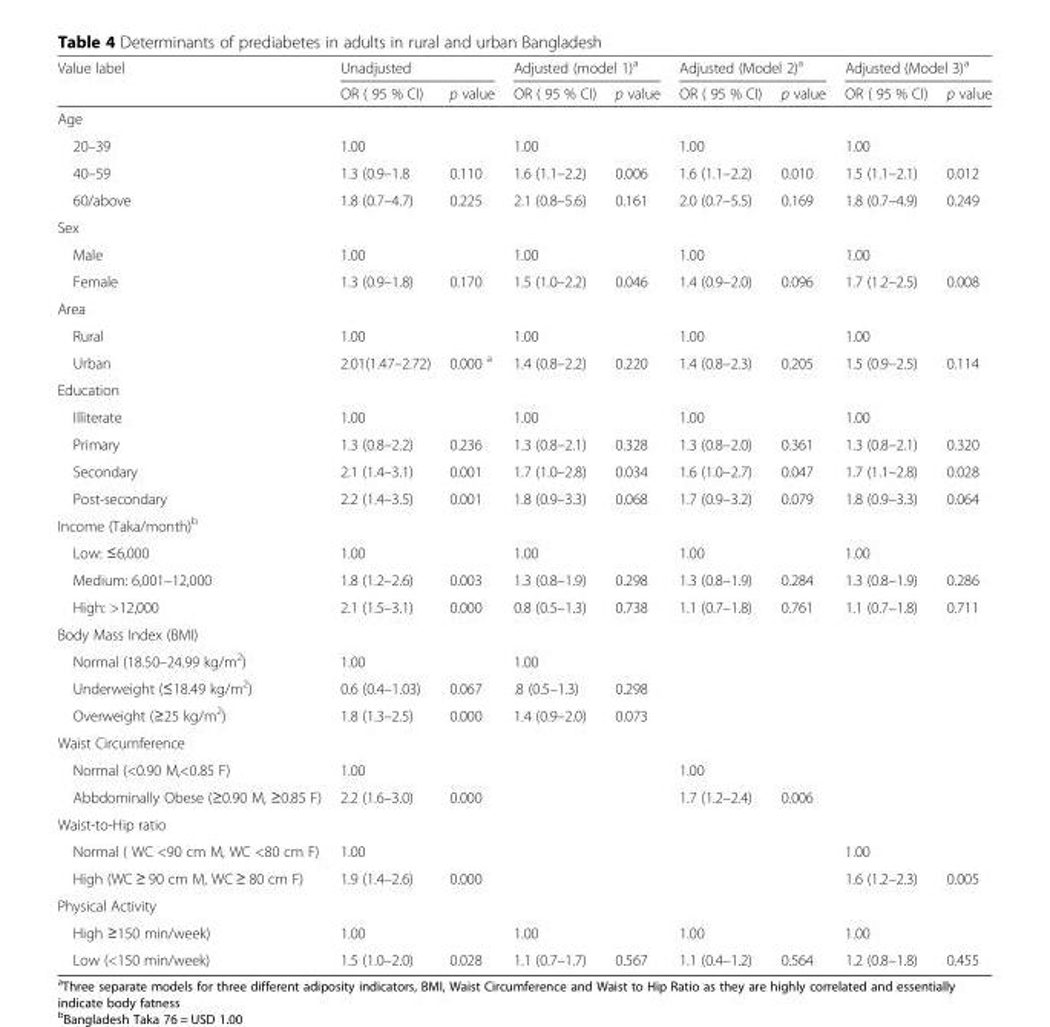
<table><thead><tr><td rowspan="2">Value label</td><td colspan="2">Unadjusted</td><td colspan="2">Adjusted (model 1)<sup>a</sup></td><td colspan="2">Adjusted (Model 2)<sup>a</sup></td><td colspan="2">Adjusted (Model 3)<sup>a</sup></td></tr><tr><td>OR ( 95 % CI)</td><td>p value</td><td>OR ( 95 % CI)</td><td>p value</td><td>OR ( 95 % CI)</td><td>p value</td><td>OR ( 95 % CI)</td><td>p value</td></tr></thead><tbody><tr><td colspan="9">Age</td></tr><tr><td>20–39</td><td>1.00</td><td></td><td>1.00</td><td></td><td>1.00</td><td></td><td>1.00</td><td></td></tr><tr><td>40–59</td><td>1.3 (0.9–1.8</td><td>0.110</td><td>1.6 (1.1–2.2)</td><td>0.006</td><td>1.6 (1.1–2.2)</td><td>0.010</td><td>1.5 (1.1–2.1)</td><td>0.012</td></tr><tr><td>60/above</td><td>1.8 (0.7–4.7)</td><td>0.225</td><td>2.1 (0.8–5.6)</td><td>0.161</td><td>2.0 (0.7–5.5)</td><td>0.169</td><td>1.8 (0.7–4.9)</td><td>0.249</td></tr><tr><td colspan="9">Sex</td></tr><tr><td>Male</td><td>1.00</td><td></td><td>1.00</td><td></td><td>1.00</td><td></td><td>1.00</td><td></td></tr><tr><td>Female</td><td>1.3 (0.9–1.8)</td><td>0.170</td><td>1.5 (1.0–2.2)</td><td>0.046</td><td>1.4 (0.9–2.0)</td><td>0.096</td><td>1.7 (1.2–2.5)</td><td>0.008</td></tr><tr><td colspan="9">Area</td></tr><tr><td>Rural</td><td>1.00</td><td></td><td>1.00</td><td></td><td>1.00</td><td></td><td>1.00</td><td></td></tr><tr><td>Urban</td><td>2.01(1.47–2.72)</td><td>0.000 <sup>a</sup></td><td>1.4 (0.8–2.2)</td><td>0.220</td><td>1.4 (0.8–2.3)</td><td>0.205</td><td>1.5 (0.9–2.5)</td><td>0.114</td></tr><tr><td colspan="9">Education</td></tr><tr><td>Illiterate</td><td>1.00</td><td></td><td>1.00</td><td></td><td>1.00</td><td></td><td>1.00</td><td></td></tr><tr><td>Primary</td><td>1.3 (0.8–2.2)</td><td>0.236</td><td>1.3 (0.8–2.1)</td><td>0.328</td><td>1.3 (0.8–2.0)</td><td>0.361</td><td>1.3 (0.8–2.1)</td><td>0.320</td></tr><tr><td>Secondary</td><td>2.1 (1.4–3.1)</td><td>0.001</td><td>1.7 (1.0–2.8)</td><td>0.034</td><td>1.6 (1.0–2.7)</td><td>0.047</td><td>1.7 (1.1–2.8)</td><td>0.028</td></tr><tr><td>Post-secondary</td><td>2.2 (1.4–3.5)</td><td>0.001</td><td>1.8 (0.9–3.3)</td><td>0.068</td><td>1.7 (0.9–3.2)</td><td>0.079</td><td>1.8 (0.9–3.3)</td><td>0.064</td></tr><tr><td colspan="9">Income (Taka/month)<sup>b</sup></td></tr><tr><td>Low: ≤6,000</td><td>1.00</td><td></td><td>1.00</td><td></td><td>1.00</td><td></td><td>1.00</td><td></td></tr><tr><td>Medium: 6,001–12,000</td><td>1.8 (1.2–2.6)</td><td>0.003</td><td>1.3 (0.8–1.9)</td><td>0.298</td><td>1.3 (0.8–1.9)</td><td>0.284</td><td>1.3 (0.8–1.9)</td><td>0.286</td></tr><tr><td>High: &gt;12,000</td><td>2.1 (1.5–3.1)</td><td>0.000</td><td>0.8 (0.5–1.3)</td><td>0.738</td><td>1.1 (0.7–1.8)</td><td>0.761</td><td>1.1 (0.7–1.8)</td><td>0.711</td></tr><tr><td colspan="9">Body Mass Index (BMI)</td></tr><tr><td>Normal (18.50–24.99 kg/m<sup>2</sup>)</td><td>1.00</td><td></td><td>1.00</td><td></td><td></td><td></td><td></td><td></td></tr><tr><td>Underweight (≤18.49 kg/m<sup>2</sup>)</td><td>0.6 (0.4–1.03)</td><td>0.067</td><td>.8 (0.5–1.3)</td><td>0.298</td><td></td><td></td><td></td><td></td></tr><tr><td>Overweight (≥25 kg/m<sup>2</sup>)</td><td>1.8 (1.3–2.5)</td><td>0.000</td><td>1.4 (0.9–2.0)</td><td>0.073</td><td></td><td></td><td></td><td></td></tr><tr><td colspan="9">Waist Circumference</td></tr><tr><td>Normal (&lt;0.90 M,&lt;0.85 F)</td><td>1.00</td><td></td><td></td><td></td><td>1.00</td><td></td><td></td><td></td></tr><tr><td>Abbdominally Obese (≥0.90 M, ≥0.85 F)</td><td>2.2 (1.6–3.0)</td><td>0.000</td><td></td><td></td><td>1.7 (1.2–2.4)</td><td>0.006</td><td></td><td></td></tr><tr><td colspan="9">Waist-to-Hip ratio</td></tr><tr><td>Normal ( WC &lt;90 cm M, WC &lt;80 cm F)</td><td>1.00</td><td></td><td></td><td></td><td></td><td></td><td>1.00</td><td></td></tr><tr><td>High (WC ≥ 90 cm M, WC ≥ 80 cm F)</td><td>1.9 (1.4–2.6)</td><td>0.000</td><td></td><td></td><td></td><td></td><td>1.6 (1.2–2.3)</td><td>0.005</td></tr><tr><td colspan="9">Physical Activity</td></tr><tr><td>High ≥150 min/week)</td><td>1.00</td><td></td><td>1.00</td><td></td><td>1.00</td><td></td><td>1.00</td><td></td></tr><tr><td>Low (&lt;150 min/week)</td><td>1.5 (1.0–2.0)</td><td>0.028</td><td>1.1 (0.7–1.7)</td><td>0.567</td><td>1.1 (0.4–1.2)</td><td>0.564</td><td>1.2 (0.8–1.8)</td><td>0.455</td></tr></tbody></table>